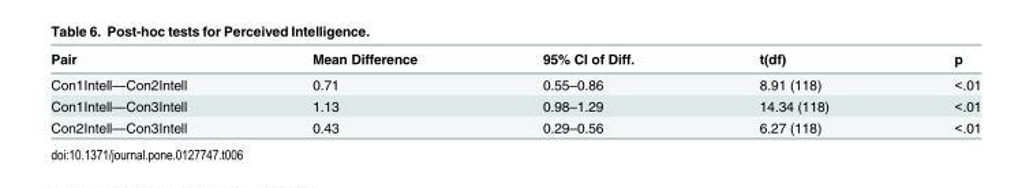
<table><thead><tr><td>Pair</td><td>Mean Difference</td><td>95% CI of Diff.</td><td>t(df)</td><td>p</td></tr></thead><tbody><tr><td>Con1Intell—Con2Intell</td><td>0.71</td><td>0.55–0.86</td><td>8.91 (118)</td><td>&lt;.01</td></tr><tr><td>Con1Intell—Con3Intell</td><td>1.13</td><td>0.98–1.29</td><td>14.34 (118)</td><td>&lt;.01</td></tr><tr><td>Con2Intell—Con3Intell</td><td>0.43</td><td>0.29–0.56</td><td>6.27 (118)</td><td>&lt;.01</td></tr></tbody></table>